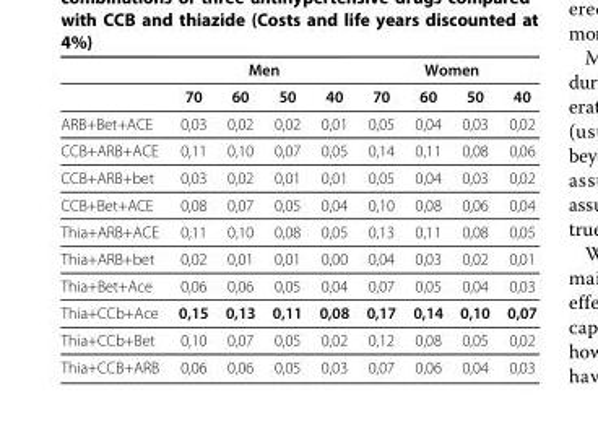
<table><thead><tr><td rowspan="2"></td><td colspan="4">Men</td><td colspan="4">Women</td></tr><tr><td>70</td><td>60</td><td>50</td><td>40</td><td>70</td><td>60</td><td>50</td><td>40</td></tr></thead><tbody><tr><td>ARB+Bet+ACE</td><td>0,03</td><td>0,02</td><td>0,02</td><td>0,01</td><td>0,05</td><td>0,04</td><td>0,03</td><td>0,02</td></tr><tr><td>CCB+ARB+ACE</td><td>0,11</td><td>0,10</td><td>0,07</td><td>0,05</td><td>0,14</td><td>0,11</td><td>0,08</td><td>0,06</td></tr><tr><td>CCB+ARB+bet</td><td>0,03</td><td>0,02</td><td>0,01</td><td>0,01</td><td>0,05</td><td>0,04</td><td>0,03</td><td>0,02</td></tr><tr><td>CCB+Bet+ACE</td><td>0,08</td><td>0,07</td><td>0,05</td><td>0,04</td><td>0,10</td><td>0,08</td><td>0,06</td><td>0,04</td></tr><tr><td>Thia+ARB+ACE</td><td>0,11</td><td>0,10</td><td>0,08</td><td>0,05</td><td>0,13</td><td>0,11</td><td>0,08</td><td>0,05</td></tr><tr><td>Thia+ARB+bet</td><td>0,02</td><td>0,01</td><td>0,01</td><td>0,00</td><td>0,04</td><td>0,03</td><td>0,02</td><td>0,01</td></tr><tr><td>Thia+Bet+Ace</td><td>0,06</td><td>0,06</td><td>0,05</td><td>0,04</td><td>0,07</td><td>0,05</td><td>0,04</td><td>0,03</td></tr><tr><td>Thia+CCb+Ace</td><td>0,15</td><td>0,13</td><td>0,11</td><td>0,08</td><td>0,17</td><td>0,14</td><td>0,10</td><td>0,07</td></tr><tr><td>Thia+CCb+Bet</td><td>0,10</td><td>0,07</td><td>0,05</td><td>0,02</td><td>0,12</td><td>0,08</td><td>0,05</td><td>0,02</td></tr><tr><td>Thia+CCB+ARB</td><td>0,06</td><td>0,06</td><td>0,05</td><td>0,03</td><td>0,07</td><td>0,06</td><td>0,04</td><td>0,03</td></tr></tbody></table>